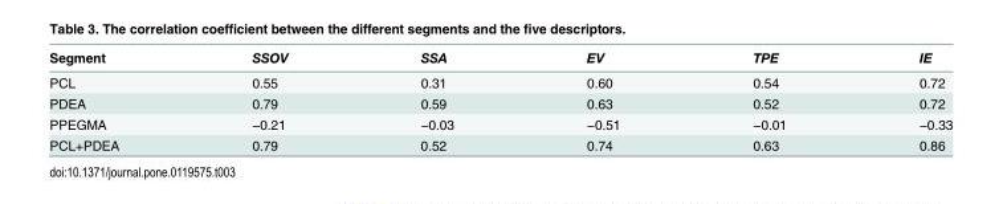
<table><thead><tr><td>Segment</td><td>SSOV</td><td>SSA</td><td>EV</td><td>TPE</td><td>IE</td></tr></thead><tbody><tr><td>PCL</td><td>0.55</td><td>0.31</td><td>0.60</td><td>0.54</td><td>0.72</td></tr><tr><td>PDEA</td><td>0.79</td><td>0.59</td><td>0.63</td><td>0.52</td><td>0.72</td></tr><tr><td>PPEGMA</td><td>−0.21</td><td>−0.03</td><td>−0.51</td><td>−0.01</td><td>−0.33</td></tr><tr><td>PCL+PDEA</td><td>0.79</td><td>0.52</td><td>0.74</td><td>0.63</td><td>0.86</td></tr></tbody></table>